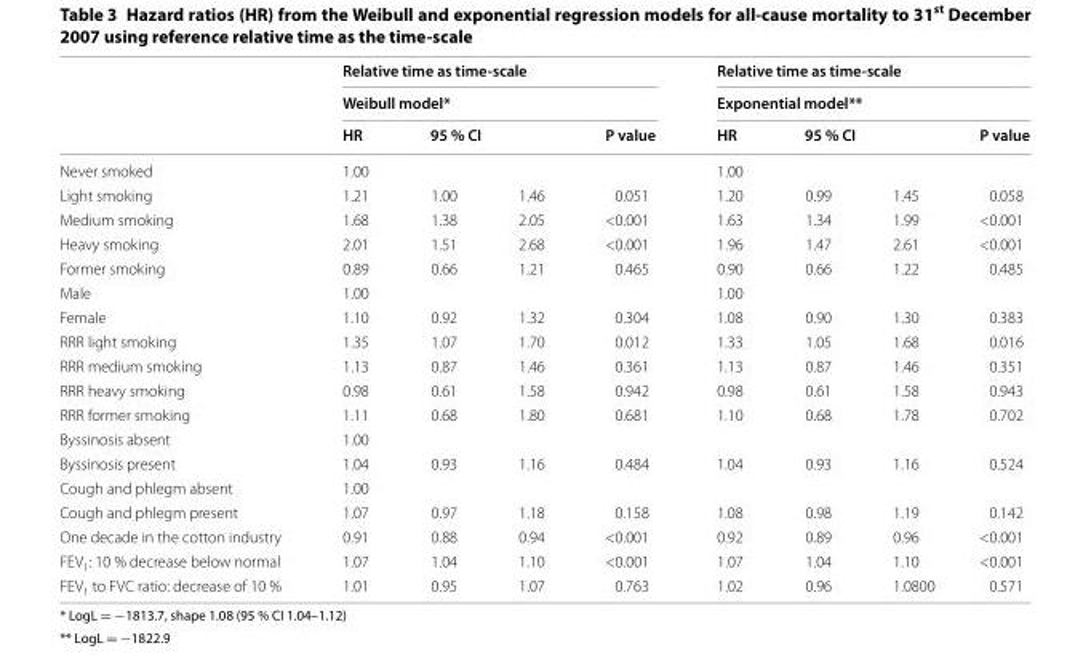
<table><thead><tr><td rowspan="4">Never smoked</td><td rowspan="2" colspan="4">Relative time as time‑scale Weibull model*</td><td rowspan="2" colspan="4">Relative time as time‑scale Exponential model**</td></tr><tr></tr><tr><td rowspan="2">HR 1.00</td><td colspan="2">95 % CI</td><td rowspan="2">P value</td><td rowspan="2">HR 1.00</td><td colspan="2">95 % CI</td><td rowspan="2">P value</td></tr><tr><td></td><td></td><td></td><td></td></tr></thead><tbody><tr><td>Light smoking</td><td>1.21</td><td>1.00</td><td>1.46</td><td>0.051</td><td>1.20</td><td>0.99</td><td>1.45</td><td>0.058</td></tr><tr><td>Medium smoking</td><td>1.68</td><td>1.38</td><td>2.05</td><td>&lt;0.001</td><td>1.63</td><td>1.34</td><td>1.99</td><td>&lt;0.001</td></tr><tr><td>Heavy smoking</td><td>2.01</td><td>1.51</td><td>2.68</td><td>&lt;0.001</td><td>1.96</td><td>1.47</td><td>2.61</td><td>&lt;0.001</td></tr><tr><td>Former smoking</td><td>0.89</td><td>0.66</td><td>1.21</td><td>0.465</td><td>0.90</td><td>0.66</td><td>1.22</td><td>0.485</td></tr><tr><td>Male</td><td>1.00</td><td></td><td></td><td></td><td>1.00</td><td></td><td></td><td></td></tr><tr><td>Female</td><td>1.10</td><td>0.92</td><td>1.32</td><td>0.304</td><td>1.08</td><td>0.90</td><td>1.30</td><td>0.383</td></tr><tr><td>RRR light smoking</td><td>1.35</td><td>1.07</td><td>1.70</td><td>0.012</td><td>1.33</td><td>1.05</td><td>1.68</td><td>0.016</td></tr><tr><td>RRR medium smoking</td><td>1.13</td><td>0.87</td><td>1.46</td><td>0.361</td><td>1.13</td><td>0.87</td><td>1.46</td><td>0.351</td></tr><tr><td>RRR heavy smoking</td><td>0.98</td><td>0.61</td><td>1.58</td><td>0.942</td><td>0.98</td><td>0.61</td><td>1.58</td><td>0.943</td></tr><tr><td>RRR former smoking</td><td>1.11</td><td>0.68</td><td>1.80</td><td>0.681</td><td>1.10</td><td>0.68</td><td>1.78</td><td>0.702</td></tr><tr><td>Byssinosis absent</td><td>1.00</td><td></td><td></td><td></td><td></td><td></td><td></td><td></td></tr><tr><td>Byssinosis present</td><td>1.04</td><td>0.93</td><td>1.16</td><td>0.484</td><td>1.04</td><td>0.93</td><td>1.16</td><td>0.524</td></tr><tr><td>Cough and phlegm absent</td><td>1.00</td><td></td><td></td><td></td><td></td><td></td><td></td><td></td></tr><tr><td>Cough and phlegm present</td><td>1.07</td><td>0.97</td><td>1.18</td><td>0.158</td><td>1.08</td><td>0.98</td><td>1.19</td><td>0.142</td></tr><tr><td>One decade in the cotton industry</td><td>0.91</td><td>0.88</td><td>0.94</td><td>&lt;0.001</td><td>0.92</td><td>0.89</td><td>0.96</td><td>&lt;0.001</td></tr><tr><td>FEV<sub>1</sub>: 10 % decrease below normal</td><td>1.07</td><td>1.04</td><td>1.10</td><td>&lt;0.001</td><td>1.07</td><td>1.04</td><td>1.10</td><td>&lt;0.001</td></tr><tr><td>FEV<sub>1</sub> to FVC ratio: decrease of 10 %</td><td>1.01</td><td>0.95</td><td>1.07</td><td>0.763</td><td>1.02</td><td>0.96</td><td>1.0800</td><td>0.571</td></tr></tbody></table>